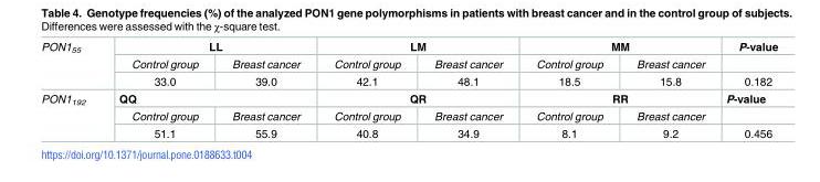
<table><tbody><tr><td rowspan="3">PON1<sub>55</sub></td><td colspan="2">LL</td><td colspan="2">LM</td><td colspan="2">MM</td><td>P-value</td></tr><tr><td>Control group</td><td>Breast cancer</td><td>Control group</td><td>Breast cancer</td><td>Control group</td><td>Breast cancer</td><td></td></tr><tr><td>33.0</td><td>39.0</td><td>42.1</td><td>48.1</td><td>18.5</td><td>15.8</td><td>0.182</td></tr><tr><td rowspan="3">PON1<sub>192</sub></td><td colspan="2">QQ</td><td colspan="2">QR</td><td colspan="2">RR</td><td>P-value</td></tr><tr><td>Control group</td><td>Breast cancer</td><td>Control group</td><td>Breast cancer</td><td>Control group</td><td>Breast cancer</td><td></td></tr><tr><td>51.1</td><td>55.9</td><td>40.8</td><td>34.9</td><td>8.1</td><td>9.2</td><td>0.456</td></tr></tbody></table>